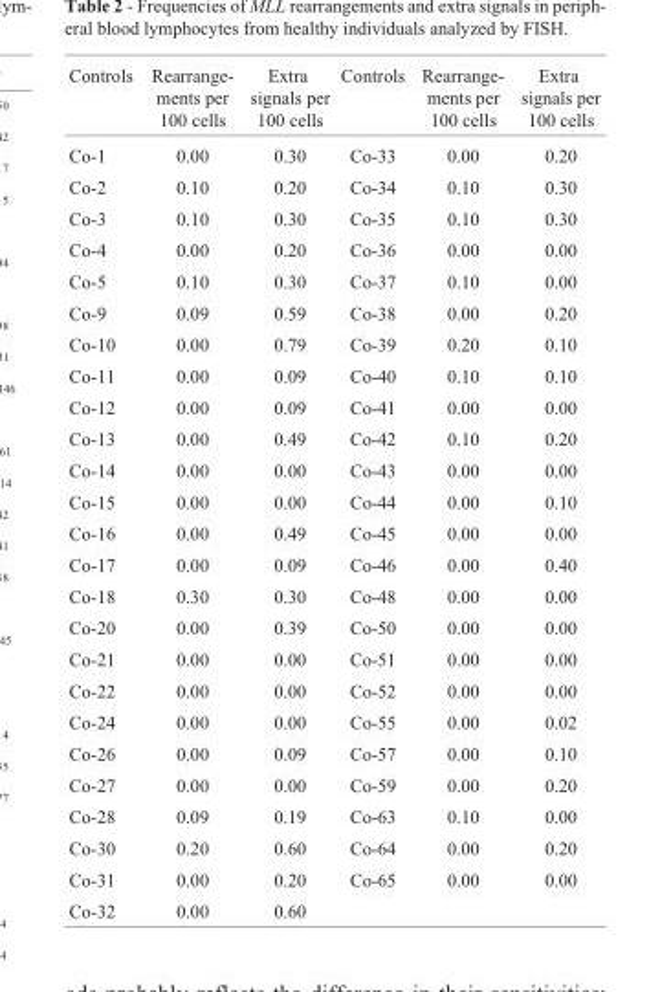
<table><thead><tr><td>Controls</td><td>Rearrange- ments per 100 cells</td><td>Extra signals per 100 cells</td><td>Controls</td><td>Rearrange- ments per 100 cells</td><td>Extra signals per 100 cells</td></tr></thead><tbody><tr><td>Co-1</td><td>0.00</td><td>0.30</td><td>Co-33</td><td>0.00</td><td>0.20</td></tr><tr><td>Co-2</td><td>0.10</td><td>0.20</td><td>Co-34</td><td>0.10</td><td>0.30</td></tr><tr><td>Co-3</td><td>0.10</td><td>0.30</td><td>Co-35</td><td>0.10</td><td>0.30</td></tr><tr><td>Co-4</td><td>0.00</td><td>0.20</td><td>Co-36</td><td>0.00</td><td>0.00</td></tr><tr><td>Co-5</td><td>0.10</td><td>0.30</td><td>Co-37</td><td>0.10</td><td>0.00</td></tr><tr><td>Co-9</td><td>0.09</td><td>0.59</td><td>Co-38</td><td>0.00</td><td>0.20</td></tr><tr><td>Co-10</td><td>0.00</td><td>0.79</td><td>Co-39</td><td>0.20</td><td>0.10</td></tr><tr><td>Co-11</td><td>0.00</td><td>0.09</td><td>Co-40</td><td>0.10</td><td>0.10</td></tr><tr><td>Co-12</td><td>0.00</td><td>0.09</td><td>Co-41</td><td>0.00</td><td>0.00</td></tr><tr><td>Co-13</td><td>0.00</td><td>0.49</td><td>Co-42</td><td>0.10</td><td>0.20</td></tr><tr><td>Co-14</td><td>0.00</td><td>0.00</td><td>Co-43</td><td>0.00</td><td>0.00</td></tr><tr><td>Co-15</td><td>0.00</td><td>0.00</td><td>Co-44</td><td>0.00</td><td>0.10</td></tr><tr><td>Co-16</td><td>0.00</td><td>0.49</td><td>Co-45</td><td>0.00</td><td>0.00</td></tr><tr><td>Co-17</td><td>0.00</td><td>0.09</td><td>Co-46</td><td>0.00</td><td>0.40</td></tr><tr><td>Co-18</td><td>0.30</td><td>0.30</td><td>Co-48</td><td>0.00</td><td>0.00</td></tr><tr><td>Co-20</td><td>0.00</td><td>0.39</td><td>Co-50</td><td>0.00</td><td>0.00</td></tr><tr><td>Co-21</td><td>0.00</td><td>0.00</td><td>Co-51</td><td>0.00</td><td>0.00</td></tr><tr><td>Co-22</td><td>0.00</td><td>0.00</td><td>Co-52</td><td>0.00</td><td>0.00</td></tr><tr><td>Co-24</td><td>0.00</td><td>0.00</td><td>Co-55</td><td>0.00</td><td>0.02</td></tr><tr><td>Co-26</td><td>0.00</td><td>0.09</td><td>Co-57</td><td>0.00</td><td>0.10</td></tr><tr><td>Co-27</td><td>0.00</td><td>0.00</td><td>Co-59</td><td>0.00</td><td>0.20</td></tr><tr><td>Co-28</td><td>0.09</td><td>0.19</td><td>Co-63</td><td>0.10</td><td>0.00</td></tr><tr><td>Co-30</td><td>0.20</td><td>0.60</td><td>Co-64</td><td>0.00</td><td>0.20</td></tr><tr><td>Co-31</td><td>0.00</td><td>0.20</td><td>Co-65</td><td>0.00</td><td>0.00</td></tr><tr><td>Co-32</td><td>0.00</td><td>0.60</td><td></td><td></td><td></td></tr></tbody></table>